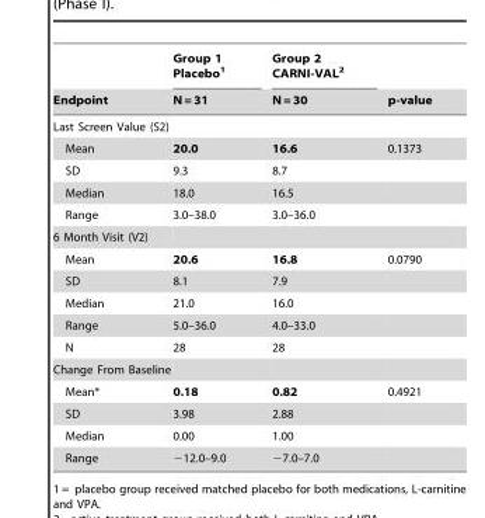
<table><thead><tr><td rowspan="2">Endpoint</td><td rowspan="2">Group 1 Placebo<sup>1</sup> N = 31</td><td rowspan="2">Group 2 CARNI-VAL<sup>2</sup> N = 30</td><td rowspan="2">p-value</td></tr><tr></tr></thead><tbody><tr><td colspan="4">Last Screen Value (S2)</td></tr><tr><td>Mean</td><td>20.0</td><td>16.6</td><td>0.1373</td></tr><tr><td>SD</td><td>9.3</td><td>8.7</td><td></td></tr><tr><td>Median</td><td>18.0</td><td>16.5</td><td></td></tr><tr><td>Range</td><td>3.0–38.0</td><td>3.0–36.0</td><td></td></tr><tr><td colspan="4">6 Month Visit (V2)</td></tr><tr><td>Mean</td><td>20.6</td><td>16.8</td><td>0.0790</td></tr><tr><td>SD</td><td>8.1</td><td>7.9</td><td></td></tr><tr><td>Median</td><td>21.0</td><td>16.0</td><td></td></tr><tr><td>Range</td><td>5.0–36.0</td><td>4.0–33.0</td><td></td></tr><tr><td>N</td><td>28</td><td>28</td><td></td></tr><tr><td colspan="4">Change From Baseline</td></tr><tr><td>Mean*</td><td>0.18</td><td>0.82</td><td>0.4921</td></tr><tr><td>SD</td><td>3.98</td><td>2.88</td><td></td></tr><tr><td>Median</td><td>0.00</td><td>1.00</td><td></td></tr><tr><td>Range</td><td>−12.0–9.0</td><td>−7.0–7.0</td><td></td></tr></tbody></table>